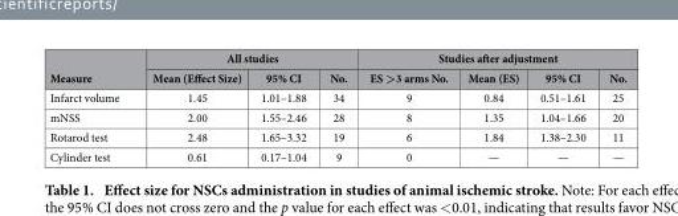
<table><thead><tr><td rowspan="2">Measure</td><td colspan="3">All studies</td><td colspan="4">Studies after adjustment</td></tr><tr><td>Mean (Effect Size)</td><td>95% CI</td><td>No.</td><td>ES &gt;3 arms No.</td><td>Mean (ES)</td><td>95% CI</td><td>No.</td></tr></thead><tbody><tr><td>Infarct volume</td><td>1.45</td><td>1.01–1.88</td><td>34</td><td>9</td><td>0.84</td><td>0.51–1.61</td><td>25</td></tr><tr><td>mNSS</td><td>2.00</td><td>1.55–2.46</td><td>28</td><td>8</td><td>1.35</td><td>1.04–1.66</td><td>20</td></tr><tr><td>Rotarod test</td><td>2.48</td><td>1.65–3.32</td><td>19</td><td>6</td><td>1.84</td><td>1.38–2.30</td><td>11</td></tr><tr><td>Cylinder test</td><td>0.61</td><td>0.17–1.04</td><td>9</td><td>0</td><td>—</td><td>—</td><td>—</td></tr></tbody></table>